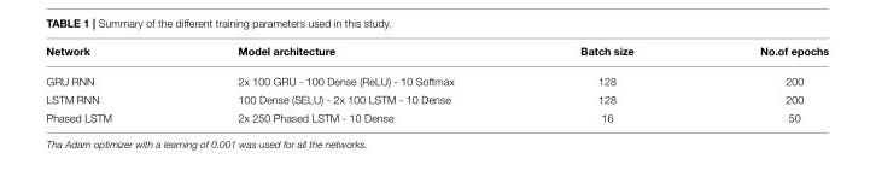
<table><thead><tr><td>Network</td><td>Model architecture</td><td>Batch size</td><td>No.of epochs</td></tr></thead><tbody><tr><td>GRU RNN</td><td>2x 100 GRU - 100 Dense (ReLU) - 10 Softmax</td><td>128</td><td>200</td></tr><tr><td>LSTM RNN</td><td>100 Dense (SELU) - 2x 100 LSTM - 10 Dense</td><td>128</td><td>200</td></tr><tr><td>Phased LSTM</td><td>2x 250 Phased LSTM - 10 Dense</td><td>16</td><td>50</td></tr></tbody></table>